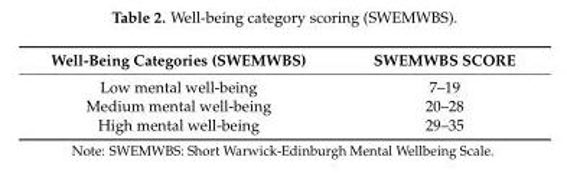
<table><thead><tr><td>Well-Being Categories (SWEMWBS)</td><td>SWEMWBS SCORE</td></tr></thead><tbody><tr><td>Low mental well-being</td><td>7–19</td></tr><tr><td>Medium mental well-being</td><td>20–28</td></tr><tr><td>High mental well-being</td><td>29–35</td></tr></tbody></table>